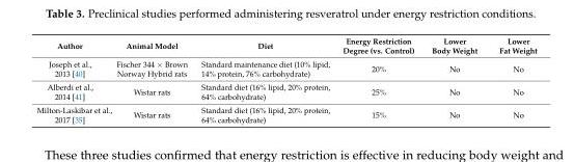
<table><thead><tr><td>Author</td><td>Animal Model</td><td>Diet</td><td>Energy Restriction Degree (vs. Control)</td><td>Lower Body Weight</td><td>Lower Fat Weight</td></tr></thead><tbody><tr><td>Joseph et al., 2013 [40]</td><td>Fischer 344 × Brown Norway Hybrid rats</td><td>Standard maintenance diet (10% lipid, 14% protein, 76% carbohydrate)</td><td>20%</td><td>No</td><td>No</td></tr><tr><td>Alberdi et al., 2014 [41]</td><td>Wistar rats</td><td>Standard diet (16% lipid, 20% protein, 64% carbohydrate)</td><td>25%</td><td>No</td><td>No</td></tr><tr><td>Milton-Laskibar et al., 2017 [35]</td><td>Wistar rats</td><td>Standard diet (16% lipid, 20% protein, 64% carbohydrate)</td><td>15%</td><td>No</td><td>No</td></tr></tbody></table>